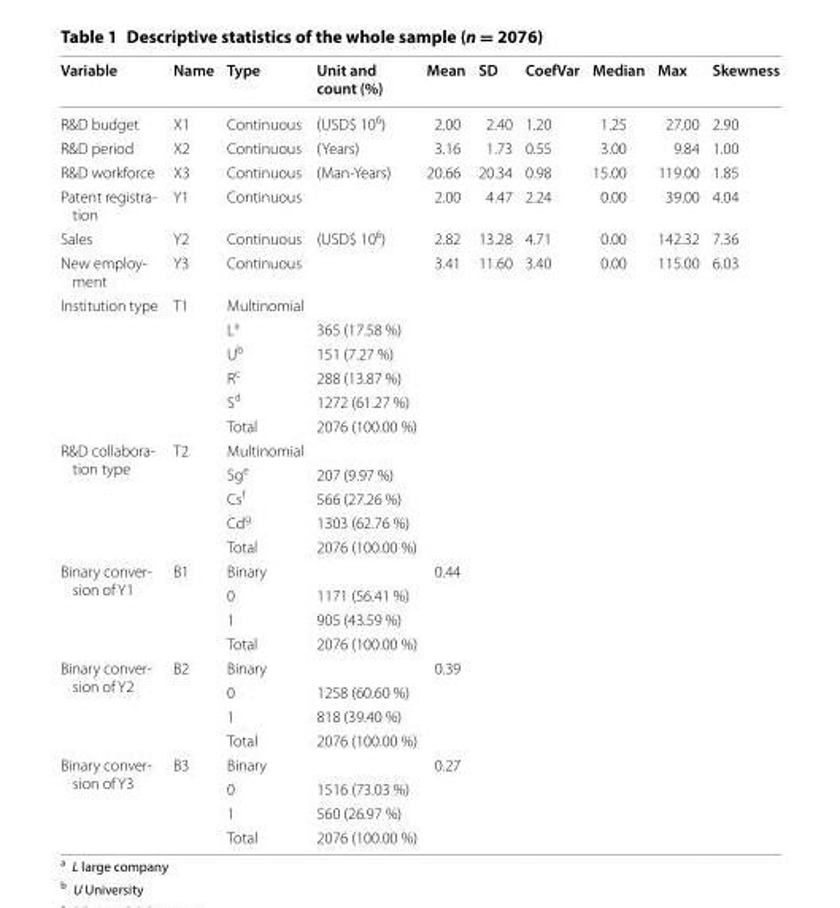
<table><thead><tr><td>Variable</td><td>Name</td><td>Type</td><td>Unit and count (%)</td><td>Mean</td><td>SD</td><td>CoefVar</td><td>Median</td><td>Max</td><td>Skewness</td></tr></thead><tbody><tr><td>R&amp;D budget</td><td>X1</td><td>Continuous</td><td>(USD$ 10<sup>6</sup>)</td><td>2.00</td><td>2.40</td><td>1.20</td><td>1.25</td><td>27.00</td><td>2.90</td></tr><tr><td>R&amp;D period</td><td>X2</td><td>Continuous</td><td>(Years)</td><td>3.16</td><td>1.73</td><td>0.55</td><td>3.00</td><td>9.84</td><td>1.00</td></tr><tr><td>R&amp;D workforce</td><td>X3</td><td>Continuous</td><td>(Man-Years)</td><td>20.66</td><td>20.34</td><td>0.98</td><td>15.00</td><td>119.00</td><td>1.85</td></tr><tr><td>Patent registra- tion</td><td>Y1</td><td>Continuous</td><td></td><td>2.00</td><td>4.47</td><td>2.24</td><td>0.00</td><td>39.00</td><td>4.04</td></tr><tr><td>Sales</td><td>Y2</td><td>Continuous</td><td>(USD$ 10<sup>6</sup>)</td><td>2.82</td><td>13.28</td><td>4.71</td><td>0.00</td><td>142.32</td><td>7.36</td></tr><tr><td>New employ- ment</td><td>Y3</td><td>Continuous</td><td></td><td>3.41</td><td>11.60</td><td>3.40</td><td>0.00</td><td>115.00</td><td>6.03</td></tr><tr><td rowspan="6">Institution type</td><td rowspan="6">T1</td><td>Multinomial</td><td></td><td></td><td></td><td></td><td></td><td></td><td></td></tr><tr><td>L<sup>a</sup></td><td>365 (17.58 %)</td><td></td><td></td><td></td><td></td><td></td><td></td></tr><tr><td>U<sup>b</sup></td><td>151 (7.27 %)</td><td></td><td></td><td></td><td></td><td></td><td></td></tr><tr><td>R<sup>c</sup></td><td>288 (13.87 %)</td><td></td><td></td><td></td><td></td><td></td><td></td></tr><tr><td>S<sup>d</sup></td><td>1272 (61.27 %)</td><td></td><td></td><td></td><td></td><td></td><td></td></tr><tr><td>Total</td><td>2076 (100.00 %)</td><td></td><td></td><td></td><td></td><td></td><td></td></tr><tr><td rowspan="5">R&amp;D collabora- tion type</td><td rowspan="5">T2</td><td>Multinomial</td><td></td><td></td><td></td><td></td><td></td><td></td><td></td></tr><tr><td>Sg<sup>e</sup></td><td>207 (9.97 %)</td><td></td><td></td><td></td><td></td><td></td><td></td></tr><tr><td>Cs<sup>f</sup></td><td>566 (27.26 %)</td><td></td><td></td><td></td><td></td><td></td><td></td></tr><tr><td>Cd<sup>g</sup></td><td>1303 (62.76 %)</td><td></td><td></td><td></td><td></td><td></td><td></td></tr><tr><td>Total</td><td>2076 (100.00 %)</td><td></td><td></td><td></td><td></td><td></td><td></td></tr><tr><td rowspan="4">Binary conver- sion of Y1</td><td rowspan="4">B1</td><td>Binary</td><td></td><td>0.44</td><td></td><td></td><td></td><td></td><td></td></tr><tr><td>0</td><td>1171 (56.41 %)</td><td></td><td></td><td></td><td></td><td></td><td></td></tr><tr><td>1</td><td>905 (43.59 %)</td><td></td><td></td><td></td><td></td><td></td><td></td></tr><tr><td>Total</td><td>2076 (100.00 %)</td><td></td><td></td><td></td><td></td><td></td><td></td></tr><tr><td rowspan="4">Binary conver- sion of Y2</td><td rowspan="4">B2</td><td>Binary</td><td></td><td>0.39</td><td></td><td></td><td></td><td></td><td></td></tr><tr><td>0</td><td>1258 (60.60 %)</td><td></td><td></td><td></td><td></td><td></td><td></td></tr><tr><td>1</td><td>818 (39.40 %)</td><td></td><td></td><td></td><td></td><td></td><td></td></tr><tr><td>Total</td><td>2076 (100.00 %)</td><td></td><td></td><td></td><td></td><td></td><td></td></tr><tr><td rowspan="4">Binary conver- sion of Y3</td><td rowspan="4">B3</td><td>Binary</td><td></td><td>0.27</td><td></td><td></td><td></td><td></td><td></td></tr><tr><td>0</td><td>1516 (73.03 %)</td><td></td><td></td><td></td><td></td><td></td><td></td></tr><tr><td>1</td><td>560 (26.97 %)</td><td></td><td></td><td></td><td></td><td></td><td></td></tr><tr><td>Total</td><td>2076 (100.00 %)</td><td></td><td></td><td></td><td></td><td></td><td></td></tr></tbody></table>